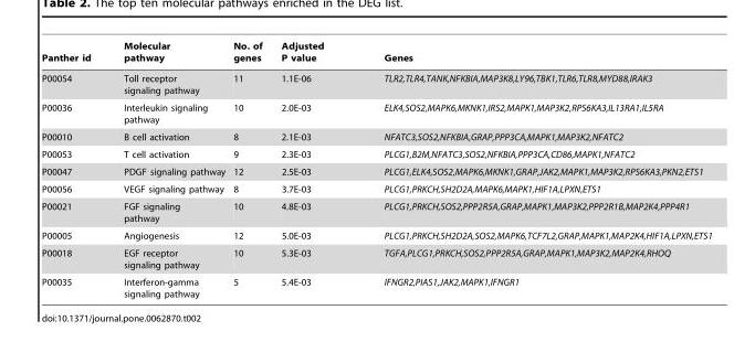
<table><thead><tr><td>Panther id</td><td>Molecular pathway</td><td>No. of genes</td><td>Adjusted P value</td><td>Genes</td></tr></thead><tbody><tr><td>P00054</td><td>Toll receptor signaling pathway</td><td>11</td><td>1.1E-06</td><td>TLR2,TLR4,TANK,NFKBIA,MAP3K8,LY96,TBK1,TLR6,TLR8,MYD88,IRAK3</td></tr><tr><td>P00036</td><td>Interleukin signaling pathway</td><td>10</td><td>2.0E-03</td><td>ELK4,SOS2,MAPK6,MKNK1,IRS2,MAPK1,MAP3K2,RPS6KA3,IL13RA1,IL5RA</td></tr><tr><td>P00010</td><td>B cell activation</td><td>8</td><td>2.1E-03</td><td>NFATC3,SOS2,NFKBIA,GRAP,PPP3CA,MAPK1,MAP3K2,NFATC2</td></tr><tr><td>P00053</td><td>T cell activation</td><td>9</td><td>2.3E-03</td><td>PLCG1,B2M,NFATC3,SOS2,NFKBIA,PPP3CA,CD86,MAPK1,NFATC2</td></tr><tr><td>P00047</td><td>PDGF signaling pathway</td><td>12</td><td>2.5E-03</td><td>PLCG1,ELK4,SOS2,MAPK6,MKNK1,GRAP,JAK2,MAPK1,MAP3K2,RPS6KA3,PKN2,ETS1</td></tr><tr><td>P00056</td><td>VEGF signaling pathway</td><td>8</td><td>3.7E-03</td><td>PLCG1,PRKCH,SH2D2A,MAPK6,MAPK1,HIF1A,LPXN,ETS1</td></tr><tr><td>P00021</td><td>FGF signaling pathway</td><td>10</td><td>4.8E-03</td><td>PLCG1,PRKCH,SOS2,PPP2R5A,GRAP,MAPK1,MAP3K2,PPP2R1B,MAP2K4,PPP4R1</td></tr><tr><td>P00005</td><td>Angiogenesis</td><td>12</td><td>5.0E-03</td><td>PLCG1,PRKCH,SH2D2A,SOS2,MAPK6,TCF7L2,GRAP,MAPK1,MAP2K4,HIF1A,LPXN,ETS1</td></tr><tr><td>P00018</td><td>EGF receptor signaling pathway</td><td>10</td><td>5.3E-03</td><td>TGFA,PLCG1,PRKCH,SOS2,PPP2R5A,GRAP,MAPK1,MAP3K2,MAP2K4,RHOQ</td></tr><tr><td>P00035</td><td>Interferon-gamma signaling pathway</td><td>5</td><td>5.4E-03</td><td>IFNGR2,PIAS1,JAK2,MAPK1,IFNGR1</td></tr></tbody></table>